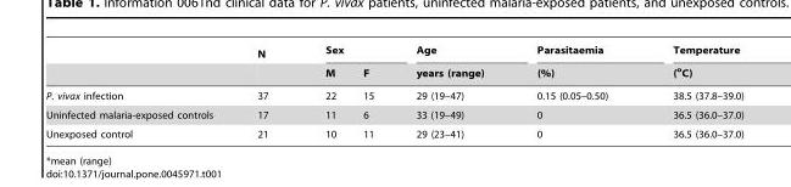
<table><thead><tr><td rowspan="2"></td><td rowspan="2">N</td><td colspan="2">Sex</td><td rowspan="2">Age years (range)</td><td rowspan="2">Parasitaemia (%)</td><td rowspan="2">Temperature (<sup>o</sup>C)</td></tr><tr><td>M</td><td>F</td></tr></thead><tbody><tr><td>P. vivax infection</td><td>37</td><td>22</td><td>15</td><td>29 (19–47)</td><td>0.15 (0.05–0.50)</td><td>38.5 (37.8–39.0)</td></tr><tr><td>Uninfected malaria-exposed controls</td><td>17</td><td>11</td><td>6</td><td>33 (19–49)</td><td>0</td><td>36.5 (36.0–37.0)</td></tr><tr><td>Unexposed control</td><td>21</td><td>10</td><td>11</td><td>29 (23–41)</td><td>0</td><td>36.5 (36.0–37.0)</td></tr></tbody></table>